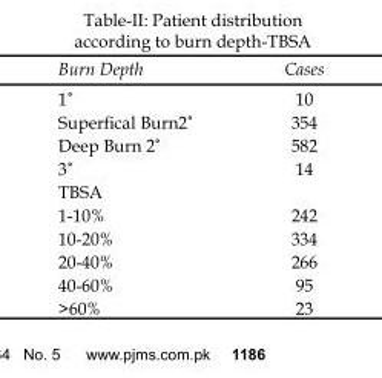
<table><thead><tr><td>Burn Depth</td><td>Cases</td></tr></thead><tbody><tr><td>1˚</td><td>10</td></tr><tr><td>Superfical Burn2˚</td><td>354</td></tr><tr><td>Deep Burn 2˚</td><td>582</td></tr><tr><td>3˚</td><td>14</td></tr><tr><td colspan="2">TBSA</td></tr><tr><td>1-10%</td><td>242</td></tr><tr><td>10-20%</td><td>334</td></tr><tr><td>20-40%</td><td>266</td></tr><tr><td>40-60%</td><td>95</td></tr><tr><td>&gt;60%</td><td>23</td></tr></tbody></table>